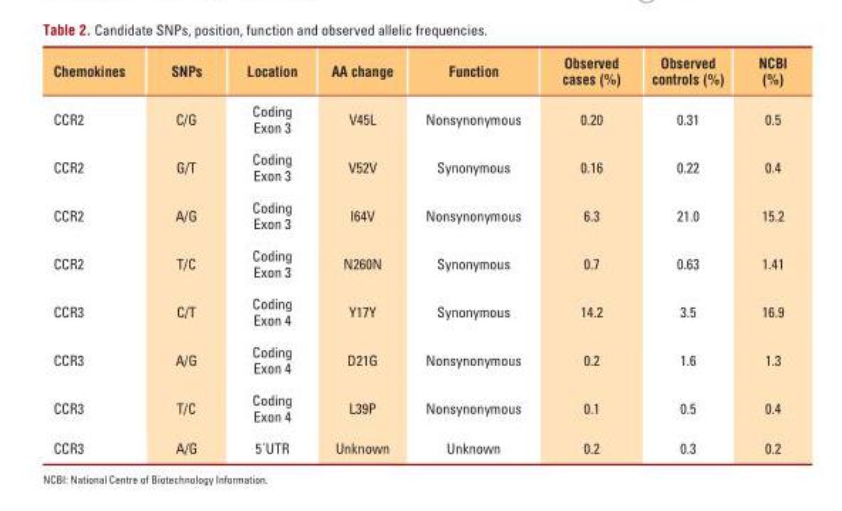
<table><thead><tr><td>Chemokines</td><td>SNPs</td><td>Location</td><td>AA change</td><td>Function</td><td>Observed cases (%)</td><td>Observed controls (%)</td><td>NCBI (%)</td></tr></thead><tbody><tr><td>CCR2</td><td>C/G</td><td>Coding Exon 3</td><td>V45L</td><td>Nonsynonymous</td><td>0.20</td><td>0.31</td><td>0.5</td></tr><tr><td>CCR2</td><td>G/T</td><td>Coding Exon 3</td><td>V52V</td><td>Synonymous</td><td>0.16</td><td>0.22</td><td>0.4</td></tr><tr><td>CCR2</td><td>A/G</td><td>Coding Exon 3</td><td>I64V</td><td>Nonsynonymous</td><td>6.3</td><td>21.0</td><td>15.2</td></tr><tr><td>CCR2</td><td>T/C</td><td>Coding Exon 3</td><td>N260N</td><td>Synonymous</td><td>0.7</td><td>0.63</td><td>1.41</td></tr><tr><td>CCR3</td><td>C/T</td><td>Coding Exon 4</td><td>Y17Y</td><td>Synonymous</td><td>14.2</td><td>3.5</td><td>16.9</td></tr><tr><td>CCR3</td><td>A/G</td><td>Coding Exon 4</td><td>D21G</td><td>Nonsynonymous</td><td>0.2</td><td>1.6</td><td>1.3</td></tr><tr><td>CCR3</td><td>T/C</td><td>Coding Exon 4</td><td>L39P</td><td>Nonsynonymous</td><td>0.1</td><td>0.5</td><td>0.4</td></tr><tr><td>CCR3</td><td>A/G</td><td>5´UTR</td><td>Unknown</td><td>Unknown</td><td>0.2</td><td>0.3</td><td>0.2</td></tr></tbody></table>